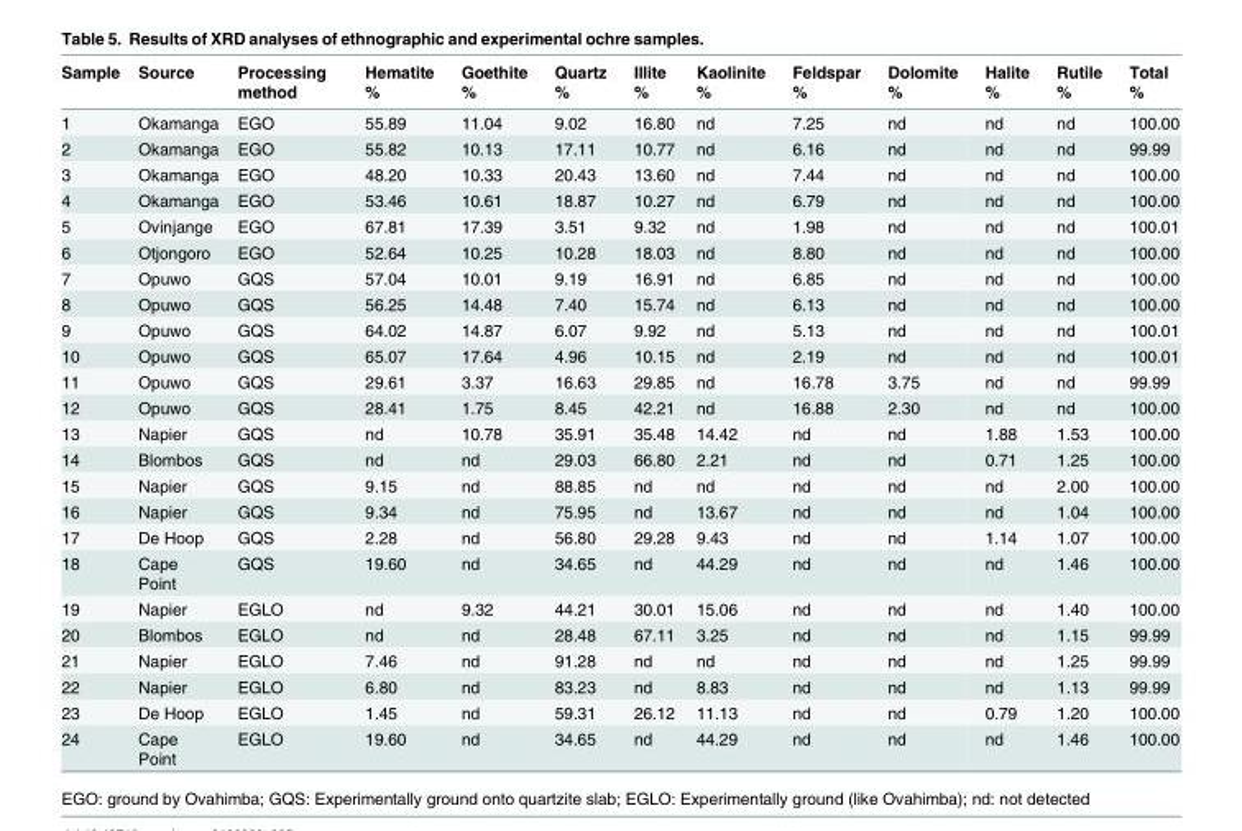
<table><thead><tr><td>Sample</td><td>Source</td><td>Processing method</td><td>Hematite %</td><td>Goethite %</td><td>Quartz %</td><td>Illite %</td><td>Kaolinite %</td><td>Feldspar %</td><td>Dolomite %</td><td>Halite %</td><td>Rutile %</td><td>Total %</td></tr></thead><tbody><tr><td>1</td><td>Okamanga</td><td>EGO</td><td>55.89</td><td>11.04</td><td>9.02</td><td>16.80</td><td>nd</td><td>7.25</td><td>nd</td><td>nd</td><td>nd</td><td>100.00</td></tr><tr><td>2</td><td>Okamanga</td><td>EGO</td><td>55.82</td><td>10.13</td><td>17.11</td><td>10.77</td><td>nd</td><td>6.16</td><td>nd</td><td>nd</td><td>nd</td><td>99.99</td></tr><tr><td>3</td><td>Okamanga</td><td>EGO</td><td>48.20</td><td>10.33</td><td>20.43</td><td>13.60</td><td>nd</td><td>7.44</td><td>nd</td><td>nd</td><td>nd</td><td>100.00</td></tr><tr><td>4</td><td>Okamanga</td><td>EGO</td><td>53.46</td><td>10.61</td><td>18.87</td><td>10.27</td><td>nd</td><td>6.79</td><td>nd</td><td>nd</td><td>nd</td><td>100.00</td></tr><tr><td>5</td><td>Ovinjange</td><td>EGO</td><td>67.81</td><td>17.39</td><td>3.51</td><td>9.32</td><td>nd</td><td>1.98</td><td>nd</td><td>nd</td><td>nd</td><td>100.01</td></tr><tr><td>6</td><td>Otjongoro</td><td>EGO</td><td>52.64</td><td>10.25</td><td>10.28</td><td>18.03</td><td>nd</td><td>8.80</td><td>nd</td><td>nd</td><td>nd</td><td>100.00</td></tr><tr><td>7</td><td>Opuwo</td><td>GQS</td><td>57.04</td><td>10.01</td><td>9.19</td><td>16.91</td><td>nd</td><td>6.85</td><td>nd</td><td>nd</td><td>nd</td><td>100.00</td></tr><tr><td>8</td><td>Opuwo</td><td>GQS</td><td>56.25</td><td>14.48</td><td>7.40</td><td>15.74</td><td>nd</td><td>6.13</td><td>nd</td><td>nd</td><td>nd</td><td>100.00</td></tr><tr><td>9</td><td>Opuwo</td><td>GQS</td><td>64.02</td><td>14.87</td><td>6.07</td><td>9.92</td><td>nd</td><td>5.13</td><td>nd</td><td>nd</td><td>nd</td><td>100.01</td></tr><tr><td>10</td><td>Opuwo</td><td>GQS</td><td>65.07</td><td>17.64</td><td>4.96</td><td>10.15</td><td>nd</td><td>2.19</td><td>nd</td><td>nd</td><td>nd</td><td>100.01</td></tr><tr><td>11</td><td>Opuwo</td><td>GQS</td><td>29.61</td><td>3.37</td><td>16.63</td><td>29.85</td><td>nd</td><td>16.78</td><td>3.75</td><td>nd</td><td>nd</td><td>99.99</td></tr><tr><td>12</td><td>Opuwo</td><td>GQS</td><td>28.41</td><td>1.75</td><td>8.45</td><td>42.21</td><td>nd</td><td>16.88</td><td>2.30</td><td>nd</td><td>nd</td><td>100.00</td></tr><tr><td>13</td><td>Napier</td><td>GQS</td><td>nd</td><td>10.78</td><td>35.91</td><td>35.48</td><td>14.42</td><td>nd</td><td>nd</td><td>1.88</td><td>1.53</td><td>100.00</td></tr><tr><td>14</td><td>Blombos</td><td>GQS</td><td>nd</td><td>nd</td><td>29.03</td><td>66.80</td><td>2.21</td><td>nd</td><td>nd</td><td>0.71</td><td>1.25</td><td>100.00</td></tr><tr><td>15</td><td>Napier</td><td>GQS</td><td>9.15</td><td>nd</td><td>88.85</td><td>nd</td><td>nd</td><td>nd</td><td>nd</td><td>nd</td><td>2.00</td><td>100.00</td></tr><tr><td>16</td><td>Napier</td><td>GQS</td><td>9.34</td><td>nd</td><td>75.95</td><td>nd</td><td>13.67</td><td>nd</td><td>nd</td><td>nd</td><td>1.04</td><td>100.00</td></tr><tr><td>17</td><td>De Hoop</td><td>GQS</td><td>2.28</td><td>nd</td><td>56.80</td><td>29.28</td><td>9.43</td><td>nd</td><td>nd</td><td>1.14</td><td>1.07</td><td>100.00</td></tr><tr><td>18</td><td>Cape Point</td><td>GQS</td><td>19.60</td><td>nd</td><td>34.65</td><td>nd</td><td>44.29</td><td>nd</td><td>nd</td><td>nd</td><td>1.46</td><td>100.00</td></tr><tr><td>19</td><td>Napier</td><td>EGLO</td><td>nd</td><td>9.32</td><td>44.21</td><td>30.01</td><td>15.06</td><td>nd</td><td>nd</td><td>nd</td><td>1.40</td><td>100.00</td></tr><tr><td>20</td><td>Blombos</td><td>EGLO</td><td>nd</td><td>nd</td><td>28.48</td><td>67.11</td><td>3.25</td><td>nd</td><td>nd</td><td>nd</td><td>1.15</td><td>99.99</td></tr><tr><td>21</td><td>Napier</td><td>EGLO</td><td>7.46</td><td>nd</td><td>91.28</td><td>nd</td><td>nd</td><td>nd</td><td>nd</td><td>nd</td><td>1.25</td><td>99.99</td></tr><tr><td>22</td><td>Napier</td><td>EGLO</td><td>6.80</td><td>nd</td><td>83.23</td><td>nd</td><td>8.83</td><td>nd</td><td>nd</td><td>nd</td><td>1.13</td><td>99.99</td></tr><tr><td>23</td><td>De Hoop</td><td>EGLO</td><td>1.45</td><td>nd</td><td>59.31</td><td>26.12</td><td>11.13</td><td>nd</td><td>nd</td><td>0.79</td><td>1.20</td><td>100.00</td></tr><tr><td>24</td><td>Cape Point</td><td>EGLO</td><td>19.60</td><td>nd</td><td>34.65</td><td>nd</td><td>44.29</td><td>nd</td><td>nd</td><td>nd</td><td>1.46</td><td>100.00</td></tr></tbody></table>